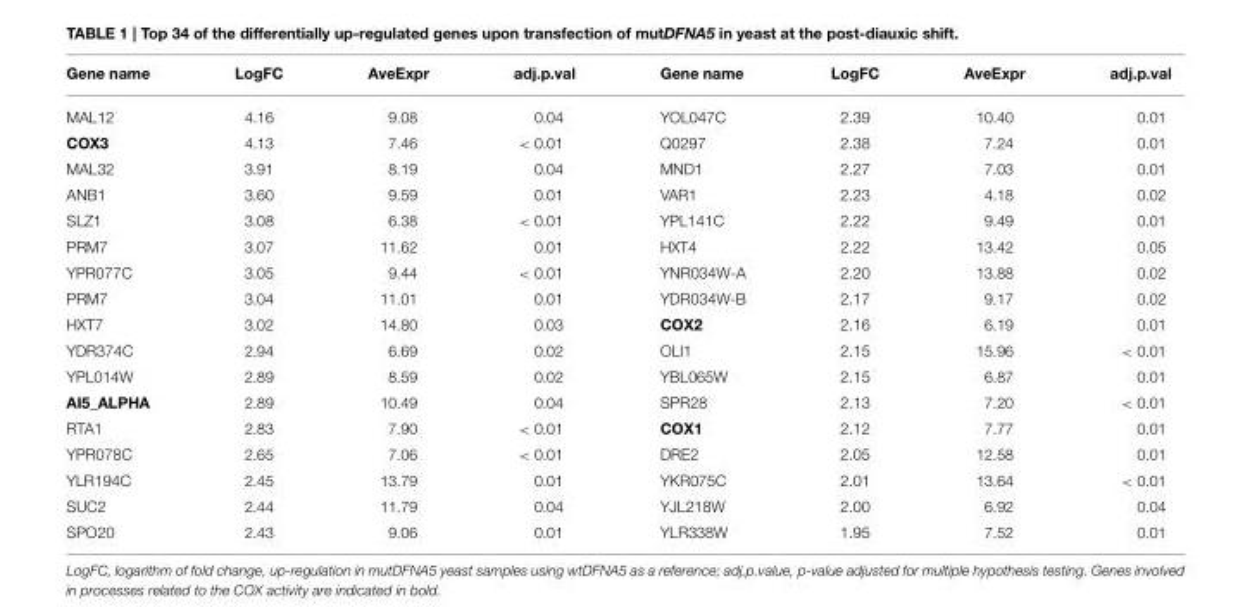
<table><thead><tr><td>Gene name</td><td>LogFC</td><td>AveExpr</td><td>adj.p.val</td><td>Gene name</td><td>LogFC</td><td>AveExpr</td><td>adj.p.val</td></tr></thead><tbody><tr><td>MAL12</td><td>4.16</td><td>9.08</td><td>0.04</td><td>YOL047C</td><td>2.39</td><td>10.40</td><td>0.01</td></tr><tr><td>COX3</td><td>4.13</td><td>7.46</td><td>&lt; 0.01</td><td>Q0297</td><td>2.38</td><td>7.24</td><td>0.01</td></tr><tr><td>MAL32</td><td>3.91</td><td>8.19</td><td>0.04</td><td>MND1</td><td>2.27</td><td>7.03</td><td>0.01</td></tr><tr><td>ANB1</td><td>3.60</td><td>9.59</td><td>0.01</td><td>VAR1</td><td>2.23</td><td>4.18</td><td>0.02</td></tr><tr><td>SLZ1</td><td>3.08</td><td>6.38</td><td>&lt; 0.01</td><td>YPL141C</td><td>2.22</td><td>9.49</td><td>0.01</td></tr><tr><td>PRM7</td><td>3.07</td><td>11.62</td><td>0.01</td><td>HXT4</td><td>2.22</td><td>13.42</td><td>0.05</td></tr><tr><td>YPR077C</td><td>3.05</td><td>9.44</td><td>&lt; 0.01</td><td>YNR034W-A</td><td>2.20</td><td>13.88</td><td>0.02</td></tr><tr><td>PRM7</td><td>3.04</td><td>11.01</td><td>0.01</td><td>YDR034W-B</td><td>2.17</td><td>9.17</td><td>0.02</td></tr><tr><td>HXT7</td><td>3.02</td><td>14.80</td><td>0.03</td><td>COX2</td><td>2.16</td><td>6.19</td><td>0.01</td></tr><tr><td>YDR374C</td><td>2.94</td><td>6.69</td><td>0.02</td><td>OLI1</td><td>2.15</td><td>15.96</td><td>&lt; 0.01</td></tr><tr><td>YPL014W</td><td>2.89</td><td>8.59</td><td>0.02</td><td>YBL065W</td><td>2.15</td><td>6.87</td><td>0.01</td></tr><tr><td>AI5_ALPHA</td><td>2.89</td><td>10.49</td><td>0.04</td><td>SPR28</td><td>2.13</td><td>7.20</td><td>&lt; 0.01</td></tr><tr><td>RTA1</td><td>2.83</td><td>7.90</td><td>&lt; 0.01</td><td>COX1</td><td>2.12</td><td>7.77</td><td>0.01</td></tr><tr><td>YPR078C</td><td>2.65</td><td>7.06</td><td>&lt; 0.01</td><td>DRE2</td><td>2.05</td><td>12.58</td><td>0.01</td></tr><tr><td>YLR194C</td><td>2.45</td><td>13.79</td><td>0.01</td><td>YKR075C</td><td>2.01</td><td>13.64</td><td>&lt; 0.01</td></tr><tr><td>SUC2</td><td>2.44</td><td>11.79</td><td>0.04</td><td>YJL218W</td><td>2.00</td><td>6.92</td><td>0.04</td></tr><tr><td>SPO20</td><td>2.43</td><td>9.06</td><td>0.01</td><td>YLR338W</td><td>1.95</td><td>7.52</td><td>0.01</td></tr></tbody></table>